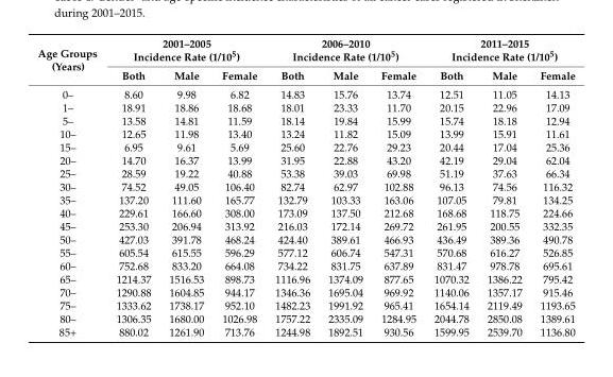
<table><thead><tr><td rowspan="2">Age Groups (Years)</td><td colspan="3">2001–2005 Incidence Rate (1/10<sup>5</sup>)</td><td colspan="3">2006–2010 Incidence Rate (1/10<sup>5</sup>)</td><td colspan="3">2011–2015 Incidence Rate (1/10<sup>5</sup>)</td></tr><tr><td>Both</td><td>Male</td><td>Female</td><td>Both</td><td>Male</td><td>Female</td><td>Both</td><td>Male</td><td>Female</td></tr></thead><tbody><tr><td>0–</td><td>8.60</td><td>9.98</td><td>6.82</td><td>14.83</td><td>15.76</td><td>13.74</td><td>12.51</td><td>11.05</td><td>14.13</td></tr><tr><td>1–</td><td>18.91</td><td>18.86</td><td>18.68</td><td>18.01</td><td>23.33</td><td>11.70</td><td>20.15</td><td>22.96</td><td>17.09</td></tr><tr><td>5–</td><td>13.58</td><td>14.81</td><td>11.59</td><td>18.14</td><td>19.84</td><td>15.99</td><td>15.74</td><td>18.18</td><td>12.94</td></tr><tr><td>10–</td><td>12.65</td><td>11.98</td><td>13.40</td><td>13.24</td><td>11.82</td><td>15.09</td><td>13.99</td><td>15.91</td><td>11.61</td></tr><tr><td>15–</td><td>6.95</td><td>9.61</td><td>5.69</td><td>25.60</td><td>22.76</td><td>29.23</td><td>20.44</td><td>17.04</td><td>25.36</td></tr><tr><td>20–</td><td>14.70</td><td>16.37</td><td>13.99</td><td>31.95</td><td>22.88</td><td>43.20</td><td>42.19</td><td>29.04</td><td>62.04</td></tr><tr><td>25–</td><td>28.59</td><td>19.22</td><td>40.88</td><td>53.38</td><td>39.03</td><td>69.98</td><td>51.19</td><td>37.63</td><td>66.34</td></tr><tr><td>30–</td><td>74.52</td><td>49.05</td><td>106.40</td><td>82.74</td><td>62.97</td><td>102.88</td><td>96.13</td><td>74.56</td><td>116.32</td></tr><tr><td>35–</td><td>137.20</td><td>111.60</td><td>165.77</td><td>132.79</td><td>103.33</td><td>163.06</td><td>107.05</td><td>79.81</td><td>134.25</td></tr><tr><td>40–</td><td>229.61</td><td>166.60</td><td>308.00</td><td>173.09</td><td>137.50</td><td>212.68</td><td>168.68</td><td>118.75</td><td>224.66</td></tr><tr><td>45–</td><td>253.30</td><td>206.94</td><td>313.92</td><td>216.03</td><td>172.14</td><td>269.72</td><td>261.95</td><td>200.55</td><td>332.35</td></tr><tr><td>50–</td><td>427.03</td><td>391.78</td><td>468.24</td><td>424.40</td><td>389.61</td><td>466.93</td><td>436.49</td><td>389.36</td><td>490.78</td></tr><tr><td>55–</td><td>605.54</td><td>615.55</td><td>596.29</td><td>577.12</td><td>606.74</td><td>547.31</td><td>570.68</td><td>616.27</td><td>526.85</td></tr><tr><td>60–</td><td>752.68</td><td>833.20</td><td>664.08</td><td>734.22</td><td>831.75</td><td>637.89</td><td>831.47</td><td>978.78</td><td>695.61</td></tr><tr><td>65–</td><td>1214.37</td><td>1516.53</td><td>898.73</td><td>1116.96</td><td>1374.09</td><td>877.65</td><td>1070.32</td><td>1386.22</td><td>795.42</td></tr><tr><td>70–</td><td>1290.88</td><td>1604.85</td><td>944.17</td><td>1346.36</td><td>1695.04</td><td>969.92</td><td>1140.06</td><td>1357.17</td><td>915.46</td></tr><tr><td>75–</td><td>1333.62</td><td>1738.17</td><td>952.10</td><td>1482.23</td><td>1991.92</td><td>965.41</td><td>1654.14</td><td>2119.49</td><td>1193.65</td></tr><tr><td>80–</td><td>1306.35</td><td>1680.00</td><td>1026.98</td><td>1757.22</td><td>2335.09</td><td>1284.95</td><td>2044.78</td><td>2850.08</td><td>1389.61</td></tr><tr><td>85+</td><td>880.02</td><td>1261.90</td><td>713.76</td><td>1244.98</td><td>1892.51</td><td>930.56</td><td>1599.95</td><td>2539.70</td><td>1136.80</td></tr></tbody></table>